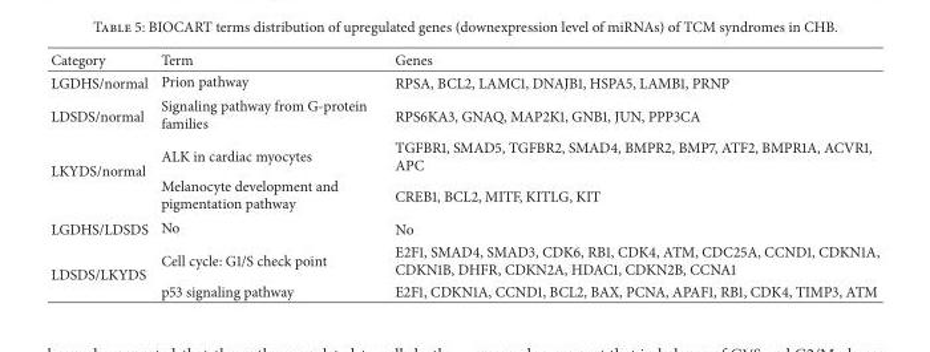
<table><thead><tr><td>Category</td><td>Term</td><td>Genes</td></tr></thead><tbody><tr><td>LGDHS/normal</td><td>Prion pathway</td><td>RPSA, BCL2, LAMC1, DNAJB1, HSPA5, LAMB1, PRNP</td></tr><tr><td>LDSDS/normal</td><td>Signaling pathway from G-protein families</td><td>RPS6KA3, GNAQ, MAP2K1, GNB1, JUN, PPP3CA</td></tr><tr><td rowspan="2">LKYDS/normal</td><td>ALK in cardiac myocytes</td><td>TGFBR1, SMAD5, TGFBR2, SMAD4, BMPR2, BMP7, ATF2, BMPR1A, ACVR1, APC</td></tr><tr><td>Melanocyte development and pigmentation pathway</td><td>CREB1, BCL2, MITF, KITLG, KIT</td></tr><tr><td>LGDHS/LDSDS</td><td>No</td><td>No</td></tr><tr><td rowspan="2">LDSDS/LKYDS</td><td>Cell cycle: G1/S check point</td><td>E2F1, SMAD4, SMAD3, CDK6, RB1, CDK4, ATM, CDC25A, CCND1, CDKN1A, CDKN1B, DHFR, CDKN2A, HDAC1, CDKN2B, CCNA1</td></tr><tr><td>p53 signaling pathway</td><td>E2F1, CDKN1A, CCND1, BCL2, BAX, PCNA, APAF1, RB1, CDK4, TIMP3, ATM</td></tr></tbody></table>